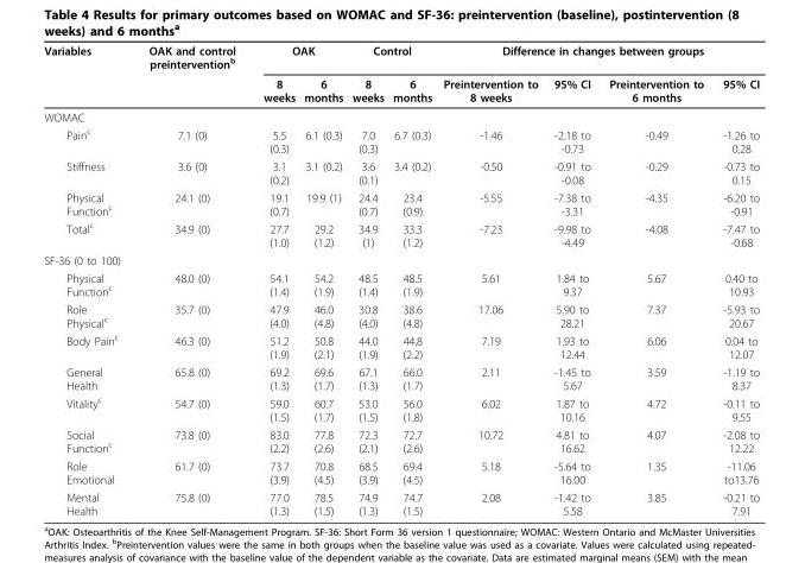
<table><thead><tr><td rowspan="2">Variables</td><td rowspan="2">OAK and control preintervention<sup>b</sup></td><td colspan="2">OAK</td><td colspan="2">Control</td><td colspan="4">Difference in changes between groups</td></tr><tr><td>8 weeks</td><td>6 months</td><td>8 weeks</td><td>6 months</td><td>Preintervention to 8 weeks</td><td>95% CI</td><td>Preintervention to 6 months</td><td>95% CI</td></tr></thead><tbody><tr><td colspan="10">WOMAC</td></tr><tr><td>Pain<sup>c</sup></td><td>7.1 (0)</td><td>5.5 (0.3)</td><td>6.1 (0.3)</td><td>7.0 (0.3)</td><td>6.7 (0.3)</td><td>-1.46</td><td>-2.18 to -0.73</td><td>-0.49</td><td>-1.26 to 0.28</td></tr><tr><td>Stiffness</td><td>3.6 (0)</td><td>3.1 (0.2)</td><td>3.1 (0.2)</td><td>3.6 (0.1)</td><td>3.4 (0.2)</td><td>-0.50</td><td>-0.91 to -0.08</td><td>-0.29</td><td>-0.73 to 0.15</td></tr><tr><td>Physical Function<sup>c</sup></td><td>24.1 (0)</td><td>19.1 (0.7)</td><td>19.9 (1)</td><td>24.4 (0.7)</td><td>23.4 (0.9)</td><td>-5.55</td><td>-7.38 to -3.31</td><td>-4.35</td><td>-6.20 to -0.91</td></tr><tr><td>Total<sup>c</sup></td><td>34.9 (0)</td><td>27.7 (1.0)</td><td>29.2 (1.2)</td><td>34.9 (1)</td><td>33.3 (1.2)</td><td>-7.23</td><td>-9.98 to -4.49</td><td>-4.08</td><td>-7.47 to -0.68</td></tr><tr><td colspan="10">SF-36 (0 to 100)</td></tr><tr><td>Physical Function<sup>c</sup></td><td>48.0 (0)</td><td>54.1 (1.4)</td><td>54.2 (1.9)</td><td>48.5 (1.4)</td><td>48.5 (1.9)</td><td>5.61</td><td>1.84 to 9.37</td><td>5.67</td><td>0.40 to 10.93</td></tr><tr><td>Role Physical<sup>c</sup></td><td>35.7 (0)</td><td>47.9 (4.0)</td><td>46.0 (4.8)</td><td>30.8 (4.0)</td><td>38.6 (4.8)</td><td>17.06</td><td>5.90 to 28.21</td><td>7.37</td><td>-5.93 to 20.67</td></tr><tr><td>Body Pain<sup>c</sup></td><td>46.3 (0)</td><td>51.2 (1.9)</td><td>50.8 (2.1)</td><td>44.0 (1.9)</td><td>44.8 (2.2)</td><td>7.19</td><td>1.93 to 12.44</td><td>6.06</td><td>0.04 to 12.07</td></tr><tr><td>General Health</td><td>65.8 (0)</td><td>69.2 (1.3)</td><td>69.6 (1.7)</td><td>67.1 (1.3)</td><td>66.0 (1.7)</td><td>2.11</td><td>-1.45 to 5.67</td><td>3.59</td><td>-1.19 to 8.37</td></tr><tr><td>Vitality<sup>c</sup></td><td>54.7 (0)</td><td>59.0 (1.5)</td><td>60.7 (1.7)</td><td>53.0 (1.5)</td><td>56.0 (1.8)</td><td>6.02</td><td>1.87 to 10.16</td><td>4.72</td><td>-0.11 to 9.55</td></tr><tr><td>Social Function<sup>c</sup></td><td>73.8 (0)</td><td>83.0 (2.2)</td><td>77.8 (2.6)</td><td>72.3 (2.1)</td><td>72.7 (2.6)</td><td>10.72</td><td>4.81 to 16.62</td><td>4.07</td><td>-2.08 to 12.22</td></tr><tr><td>Role Emotional</td><td>61.7 (0)</td><td>73.7 (3.9)</td><td>70.8 (4.5)</td><td>68.5 (3.9)</td><td>69.4 (4.5)</td><td>5.18</td><td>-5.64 to 16.00</td><td>1.35</td><td>-11.06 to13.76</td></tr><tr><td>Mental Health</td><td>75.8 (0)</td><td>77.0 (1.3)</td><td>78.5 (1.5)</td><td>74.9 (1.3)</td><td>74.7 (1.5)</td><td>2.08</td><td>-1.42 to 5.58</td><td>3.85</td><td>-0.21 to 7.91</td></tr></tbody></table>